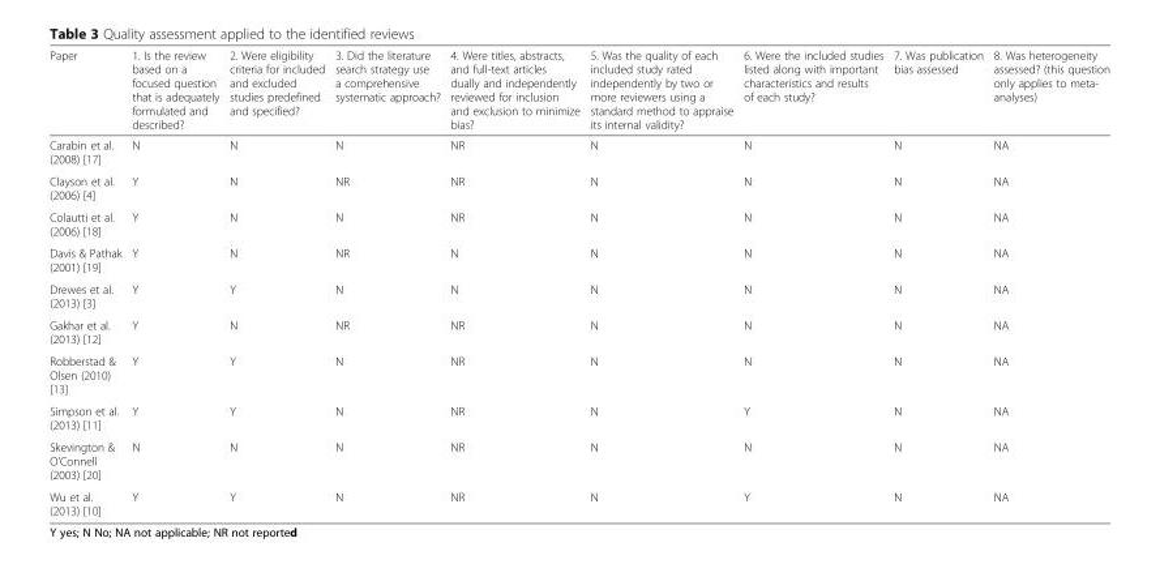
<table><thead><tr><td>Paper</td><td>1. Is the review based on a focused question that is adequately formulated and described?</td><td>2. Were eligibility criteria for included and excluded studies predefined and specified?</td><td>3. Did the literature search strategy use a comprehensive systematic approach?</td><td>4. Were titles, abstracts, and full-text articles dually and independently reviewed for inclusion and exclusion to minimize bias?</td><td>5. Was the quality of each included study rated independently by two or more reviewers using a standard method to appraise its internal validity?</td><td>6. Were the included studies listed along with important characteristics and results of each study?</td><td>7. Was publication bias assessed</td><td>8. Was heterogeneity assessed? (this question only applies to meta- analyses)</td></tr></thead><tbody><tr><td>Carabin et al. (2008) [17]</td><td>N</td><td>N</td><td>N</td><td>NR</td><td>N</td><td>N</td><td>N</td><td>NA</td></tr><tr><td>Clayson et al. (2006) [4]</td><td>Y</td><td>N</td><td>NR</td><td>NR</td><td>N</td><td>N</td><td>N</td><td>NA</td></tr><tr><td>Colautti et al. (2006) [18]</td><td>Y</td><td>N</td><td>N</td><td>NR</td><td>N</td><td>N</td><td>N</td><td>NA</td></tr><tr><td>Davis &amp; Pathak (2001) [19]</td><td>Y</td><td>N</td><td>NR</td><td>N</td><td>N</td><td>N</td><td>N</td><td>NA</td></tr><tr><td>Drewes et al. (2013) [3]</td><td>Y</td><td>Y</td><td>N</td><td>N</td><td>N</td><td>N</td><td>N</td><td>NA</td></tr><tr><td>Gakhar et al. (2013) [12]</td><td>Y</td><td>N</td><td>NR</td><td>NR</td><td>N</td><td>N</td><td>N</td><td>NA</td></tr><tr><td>Robberstad &amp; Olsen (2010) [13]</td><td>Y</td><td>Y</td><td>N</td><td>NR</td><td>N</td><td>N</td><td>N</td><td>NA</td></tr><tr><td>Simpson et al. (2013) [11]</td><td>Y</td><td>Y</td><td>N</td><td>NR</td><td>N</td><td>Y</td><td>N</td><td>NA</td></tr><tr><td>Skevington &amp; O’Connell (2003) [20]</td><td>N</td><td>N</td><td>N</td><td>NR</td><td>N</td><td>N</td><td>N</td><td>NA</td></tr><tr><td>Wu et al. (2013) [10]</td><td>Y</td><td>Y</td><td>N</td><td>NR</td><td>N</td><td>Y</td><td>N</td><td>NA</td></tr></tbody></table>